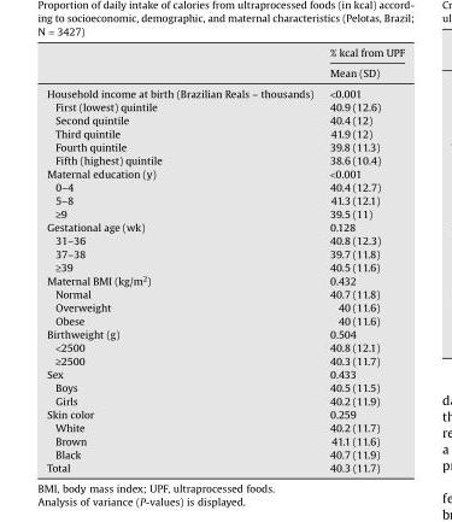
<table><thead><tr><td rowspan="2"></td><td rowspan="2">% kcal from UPF Mean (SD)</td></tr><tr></tr></thead><tbody><tr><td>Household income at birth (Brazilian Reals – thousands)</td><td>&lt;0.001</td></tr><tr><td>First (lowest) quintile</td><td>40.9 (12.6)</td></tr><tr><td>Second quintile</td><td>40.4 (12)</td></tr><tr><td>Third quintile</td><td>41.9 (12)</td></tr><tr><td>Fourth quintile</td><td>39.8 (11.3)</td></tr><tr><td>Fifth (highest) quintile</td><td>38.6 (10.4)</td></tr><tr><td>Maternal education (y)</td><td>&lt;0.001</td></tr><tr><td>0–4</td><td>40.4 (12.7)</td></tr><tr><td>5–8</td><td>41.3 (12.1)</td></tr><tr><td>≥9</td><td>39.5 (11)</td></tr><tr><td>Gestational age (wk)</td><td>0.128</td></tr><tr><td>31–36</td><td>40.8 (12.3)</td></tr><tr><td>37–38</td><td>39.7 (11.8)</td></tr><tr><td>≥39</td><td>40.5 (11.6)</td></tr><tr><td>Maternal BMI (kg/m<sup>2</sup>)</td><td>0.432</td></tr><tr><td>Normal</td><td>40.7 (11.8)</td></tr><tr><td>Overweight</td><td>40 (11.6)</td></tr><tr><td>Obese</td><td>40 (11.6)</td></tr><tr><td>Birthweight (g)</td><td>0.504</td></tr><tr><td>&lt;2500</td><td>40.8 (12.1)</td></tr><tr><td>≥2500</td><td>40.3 (11.7)</td></tr><tr><td>Sex</td><td>0.433</td></tr><tr><td>Boys</td><td>40.5 (11.5)</td></tr><tr><td>Girls</td><td>40.2 (11.9)</td></tr><tr><td>Skin color</td><td>0.259</td></tr><tr><td>White</td><td>40.2 (11.7)</td></tr><tr><td>Brown</td><td>41.1 (11.6)</td></tr><tr><td>Black</td><td>40.7 (11.9)</td></tr><tr><td>Total</td><td>40.3 (11.7)</td></tr></tbody></table>